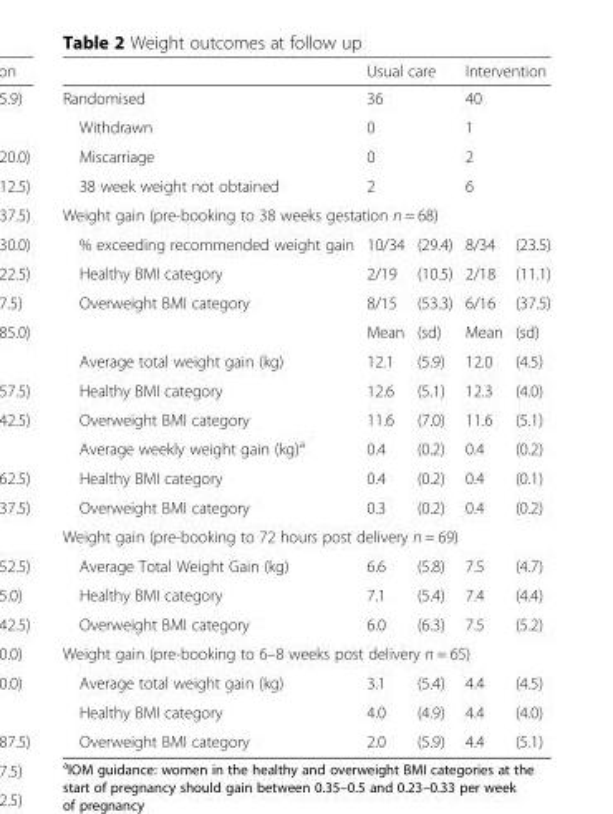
<table><thead><tr><td rowspan="2">Randomised</td><td colspan="2">Usual care</td><td colspan="2">Intervention</td></tr><tr><td>36</td><td></td><td>40</td><td></td></tr></thead><tbody><tr><td>Withdrawn</td><td>0</td><td></td><td>1</td><td></td></tr><tr><td>Miscarriage</td><td>0</td><td></td><td>2</td><td></td></tr><tr><td>38 week weight not obtained</td><td>2</td><td></td><td>6</td><td></td></tr><tr><td colspan="5">Weight gain (pre-booking to 38 weeks gestation n = 68)</td></tr><tr><td>% exceeding recommended weight gain</td><td>10/34</td><td>(29.4)</td><td>8/34</td><td>(23.5)</td></tr><tr><td>Healthy BMI category</td><td>2/19</td><td>(10.5)</td><td>2/18</td><td>(11.1)</td></tr><tr><td rowspan="2">Overweight BMI category</td><td>8/15</td><td>(53.3)</td><td>6/16</td><td>(37.5)</td></tr><tr><td>Mean</td><td>(sd)</td><td>Mean</td><td>(sd)</td></tr><tr><td>Average total weight gain (kg)</td><td>12.1</td><td>(5.9)</td><td>12.0</td><td>(4.5)</td></tr><tr><td>Healthy BMI category</td><td>12.6</td><td>(5.1)</td><td>12.3</td><td>(4.0)</td></tr><tr><td>Overweight BMI category</td><td>11.6</td><td>(7.0)</td><td>11.6</td><td>(5.1)</td></tr><tr><td>Average weekly weight gain (kg)<sup>a</sup></td><td>0.4</td><td>(0.2)</td><td>0.4</td><td>(0.2)</td></tr><tr><td>Healthy BMI category</td><td>0.4</td><td>(0.2)</td><td>0.4</td><td>(0.1)</td></tr><tr><td>Overweight BMI category</td><td>0.3</td><td>(0.2)</td><td>0.4</td><td>(0.2)</td></tr><tr><td colspan="5">Weight gain (pre-booking to 72 hours post delivery n = 69)</td></tr><tr><td>Average Total Weight Gain (kg)</td><td>6.6</td><td>(5.8)</td><td>7.5</td><td>(4.7)</td></tr><tr><td>Healthy BMI category</td><td>7.1</td><td>(5.4)</td><td>7.4</td><td>(4.4)</td></tr><tr><td>Overweight BMI category</td><td>6.0</td><td>(6.3)</td><td>7.5</td><td>(5.2)</td></tr><tr><td colspan="5">Weight gain (pre-booking to 6–8 weeks post delivery n = 65)</td></tr><tr><td>Average total weight gain (kg)</td><td>3.1</td><td>(5.4)</td><td>4.4</td><td>(4.5)</td></tr><tr><td>Healthy BMI category</td><td>4.0</td><td>(4.9)</td><td>4.4</td><td>(4.0)</td></tr><tr><td>Overweight BMI category</td><td>2.0</td><td>(5.9)</td><td>4.4</td><td>(5.1)</td></tr></tbody></table>